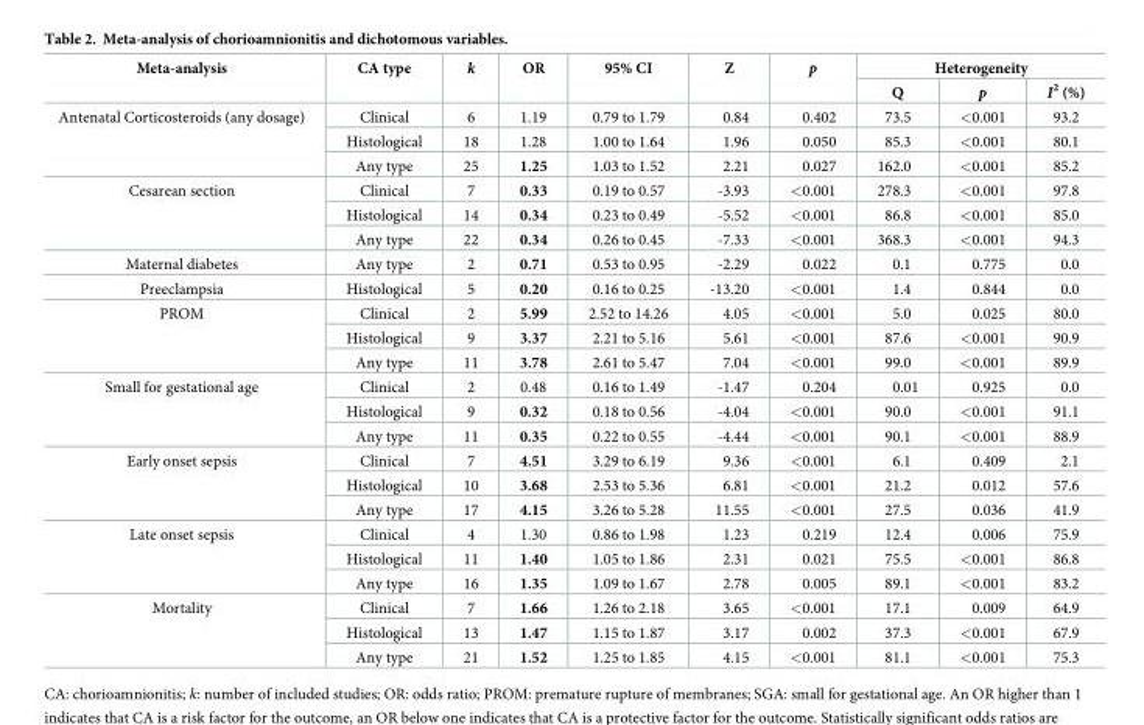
<table><thead><tr><td rowspan="2">Meta-analysis</td><td rowspan="2">CA type</td><td rowspan="2">k</td><td rowspan="2">OR</td><td rowspan="2">95% CI</td><td rowspan="2">Z</td><td rowspan="2">p</td><td colspan="3">Heterogeneity</td></tr><tr><td>Q</td><td>p</td><td>I<sup>2</sup> (%)</td></tr></thead><tbody><tr><td rowspan="3">Antenatal Corticosteroids (any dosage)</td><td>Clinical</td><td>6</td><td>1.19</td><td>0.79 to 1.79</td><td>0.84</td><td>0.402</td><td>73.5</td><td>&lt;0.001</td><td>93.2</td></tr><tr><td>Histological</td><td>18</td><td>1.28</td><td>1.00 to 1.64</td><td>1.96</td><td>0.050</td><td>85.3</td><td>&lt;0.001</td><td>80.1</td></tr><tr><td>Any type</td><td>25</td><td>1.25</td><td>1.03 to 1.52</td><td>2.21</td><td>0.027</td><td>162.0</td><td>&lt;0.001</td><td>85.2</td></tr><tr><td rowspan="3">Cesarean section</td><td>Clinical</td><td>7</td><td>0.33</td><td>0.19 to 0.57</td><td>-3.93</td><td>&lt;0.001</td><td>278.3</td><td>&lt;0.001</td><td>97.8</td></tr><tr><td>Histological</td><td>14</td><td>0.34</td><td>0.23 to 0.49</td><td>-5.52</td><td>&lt;0.001</td><td>86.8</td><td>&lt;0.001</td><td>85.0</td></tr><tr><td>Any type</td><td>22</td><td>0.34</td><td>0.26 to 0.45</td><td>-7.33</td><td>&lt;0.001</td><td>368.3</td><td>&lt;0.001</td><td>94.3</td></tr><tr><td>Maternal diabetes</td><td>Any type</td><td>2</td><td>0.71</td><td>0.53 to 0.95</td><td>-2.29</td><td>0.022</td><td>0.1</td><td>0.775</td><td>0.0</td></tr><tr><td>Preeclampsia</td><td>Histological</td><td>5</td><td>0.20</td><td>0.16 to 0.25</td><td>-13.20</td><td>&lt;0.001</td><td>1.4</td><td>0.844</td><td>0.0</td></tr><tr><td rowspan="3">PROM</td><td>Clinical</td><td>2</td><td>5.99</td><td>2.52 to 14.26</td><td>4.05</td><td>&lt;0.001</td><td>5.0</td><td>0.025</td><td>80.0</td></tr><tr><td>Histological</td><td>9</td><td>3.37</td><td>2.21 to 5.16</td><td>5.61</td><td>&lt;0.001</td><td>87.6</td><td>&lt;0.001</td><td>90.9</td></tr><tr><td>Any type</td><td>11</td><td>3.78</td><td>2.61 to 5.47</td><td>7.04</td><td>&lt;0.001</td><td>99.0</td><td>&lt;0.001</td><td>89.9</td></tr><tr><td rowspan="3">Small for gestational age</td><td>Clinical</td><td>2</td><td>0.48</td><td>0.16 to 1.49</td><td>-1.47</td><td>0.204</td><td>0.01</td><td>0.925</td><td>0.0</td></tr><tr><td>Histological</td><td>9</td><td>0.32</td><td>0.18 to 0.56</td><td>-4.04</td><td>&lt;0.001</td><td>90.0</td><td>&lt;0.001</td><td>91.1</td></tr><tr><td>Any type</td><td>11</td><td>0.35</td><td>0.22 to 0.55</td><td>-4.44</td><td>&lt;0.001</td><td>90.1</td><td>&lt;0.001</td><td>88.9</td></tr><tr><td rowspan="3">Early onset sepsis</td><td>Clinical</td><td>7</td><td>4.51</td><td>3.29 to 6.19</td><td>9.36</td><td>&lt;0.001</td><td>6.1</td><td>0.409</td><td>2.1</td></tr><tr><td>Histological</td><td>10</td><td>3.68</td><td>2.53 to 5.36</td><td>6.81</td><td>&lt;0.001</td><td>21.2</td><td>0.012</td><td>57.6</td></tr><tr><td>Any type</td><td>17</td><td>4.15</td><td>3.26 to 5.28</td><td>11.55</td><td>&lt;0.001</td><td>27.5</td><td>0.036</td><td>41.9</td></tr><tr><td rowspan="3">Late onset sepsis</td><td>Clinical</td><td>4</td><td>1.30</td><td>0.86 to 1.98</td><td>1.23</td><td>0.219</td><td>12.4</td><td>0.006</td><td>75.9</td></tr><tr><td>Histological</td><td>11</td><td>1.40</td><td>1.05 to 1.86</td><td>2.31</td><td>0.021</td><td>75.5</td><td>&lt;0.001</td><td>86.8</td></tr><tr><td>Any type</td><td>16</td><td>1.35</td><td>1.09 to 1.67</td><td>2.78</td><td>0.005</td><td>89.1</td><td>&lt;0.001</td><td>83.2</td></tr><tr><td rowspan="3">Mortality</td><td>Clinical</td><td>7</td><td>1.66</td><td>1.26 to 2.18</td><td>3.65</td><td>&lt;0.001</td><td>17.1</td><td>0.009</td><td>64.9</td></tr><tr><td>Histological</td><td>13</td><td>1.47</td><td>1.15 to 1.87</td><td>3.17</td><td>0.002</td><td>37.3</td><td>&lt;0.001</td><td>67.9</td></tr><tr><td>Any type</td><td>21</td><td>1.52</td><td>1.25 to 1.85</td><td>4.15</td><td>&lt;0.001</td><td>81.1</td><td>&lt;0.001</td><td>75.3</td></tr></tbody></table>